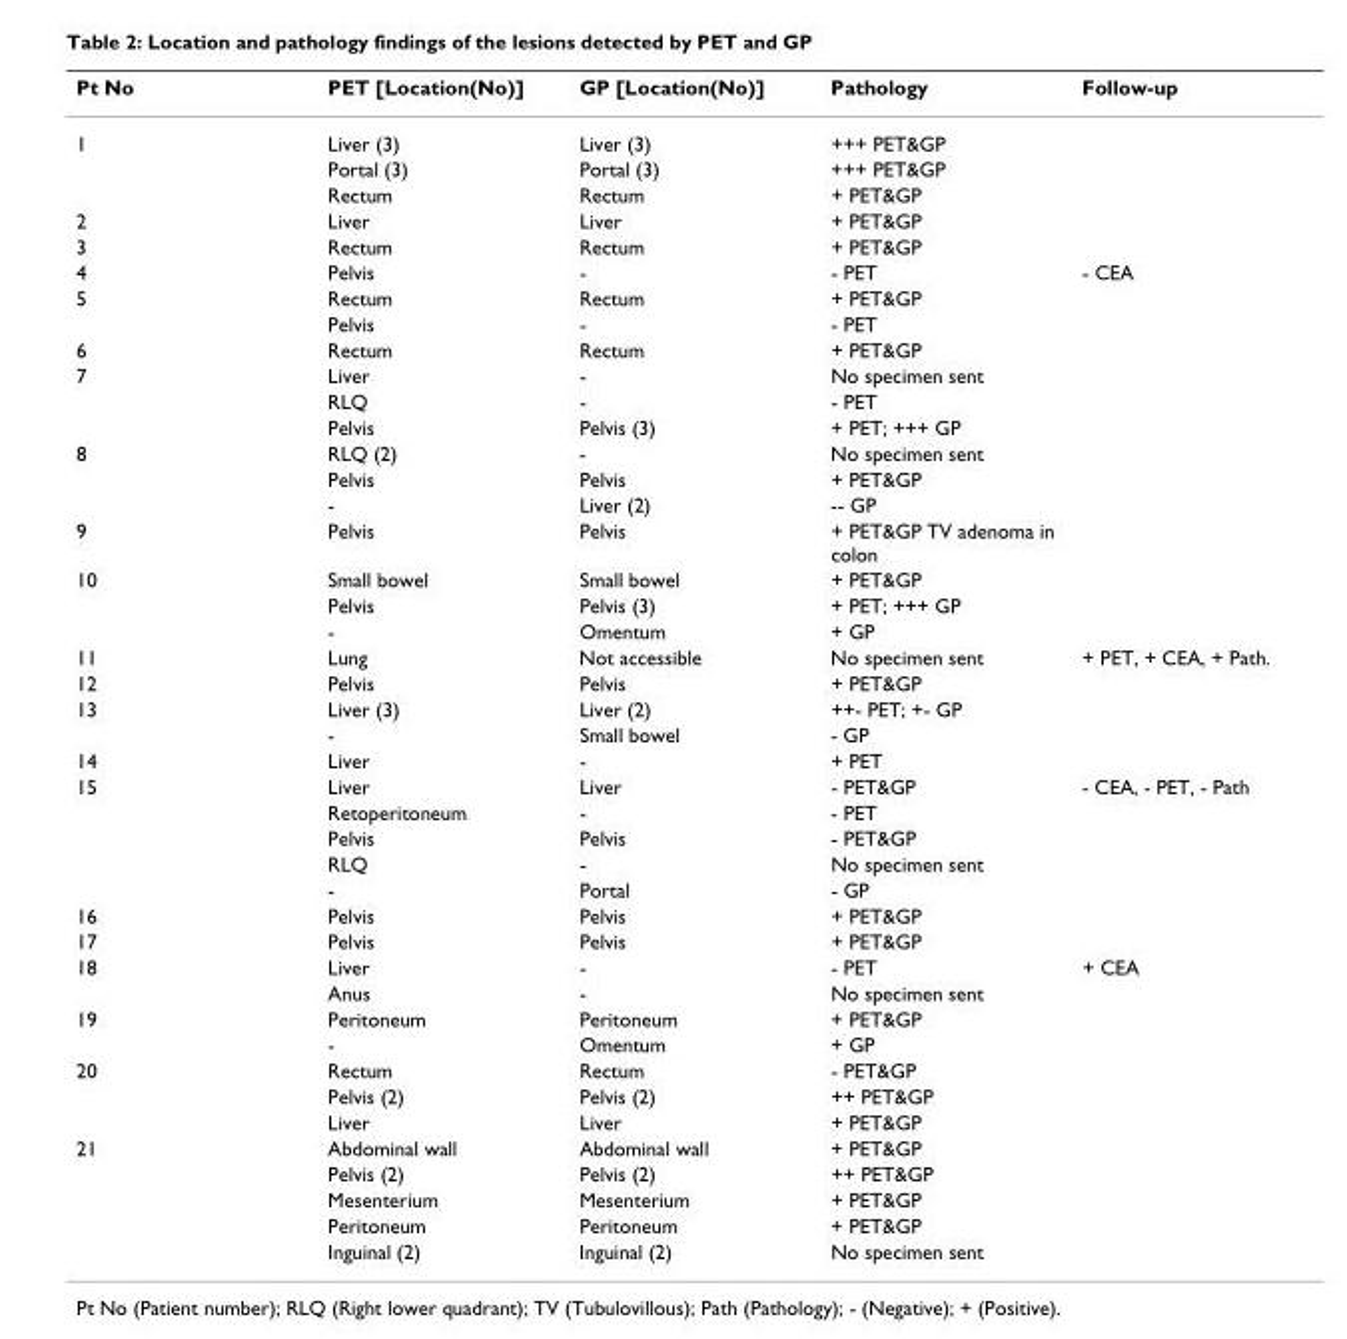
<table><thead><tr><td>Pt No</td><td>PET [Location(No)]</td><td>GP [Location(No)]</td><td>Pathology</td><td>Follow-up</td></tr></thead><tbody><tr><td rowspan="3">1</td><td>Liver (3)</td><td>Liver (3)</td><td>+++ PET&amp;GP</td><td></td></tr><tr><td>Portal (3)</td><td>Portal (3)</td><td>+++ PET&amp;GP</td><td></td></tr><tr><td>Rectum</td><td>Rectum</td><td>+ PET&amp;GP</td><td></td></tr><tr><td>2</td><td>Liver</td><td>Liver</td><td>+ PET&amp;GP</td><td></td></tr><tr><td>3</td><td>Rectum</td><td>Rectum</td><td>+ PET&amp;GP</td><td></td></tr><tr><td>4</td><td>Pelvis</td><td>-</td><td>- PET</td><td>- CEA</td></tr><tr><td rowspan="2">5</td><td>Rectum</td><td>Rectum</td><td>+ PET&amp;GP</td><td></td></tr><tr><td>Pelvis</td><td>-</td><td>- PET</td><td></td></tr><tr><td>6</td><td>Rectum</td><td>Rectum</td><td>+ PET&amp;GP</td><td></td></tr><tr><td rowspan="3">7</td><td>Liver</td><td>-</td><td>No specimen sent</td><td></td></tr><tr><td>RLQ</td><td>-</td><td>- PET</td><td></td></tr><tr><td>Pelvis</td><td>Pelvis (3)</td><td>+ PET; +++ GP</td><td></td></tr><tr><td rowspan="3">8</td><td>RLQ (2)</td><td>-</td><td>No specimen sent</td><td></td></tr><tr><td>Pelvis</td><td>Pelvis</td><td>+ PET&amp;GP</td><td></td></tr><tr><td>-</td><td>Liver (2)</td><td>-- GP</td><td></td></tr><tr><td>9</td><td>Pelvis</td><td>Pelvis</td><td>+ PET&amp;GP TV adenoma in colon</td><td></td></tr><tr><td rowspan="3">10</td><td>Small bowel</td><td>Small bowel</td><td>+ PET&amp;GP</td><td></td></tr><tr><td>Pelvis</td><td>Pelvis (3)</td><td>+ PET; +++ GP</td><td></td></tr><tr><td>-</td><td>Omentum</td><td>+ GP</td><td></td></tr><tr><td>11</td><td>Lung</td><td>Not accessible</td><td>No specimen sent</td><td>+ PET, + CEA, + Path.</td></tr><tr><td>12</td><td>Pelvis</td><td>Pelvis</td><td>+ PET&amp;GP</td><td></td></tr><tr><td rowspan="2">13</td><td>Liver (3)</td><td>Liver (2)</td><td>++- PET; +- GP</td><td></td></tr><tr><td>-</td><td>Small bowel</td><td>- GP</td><td></td></tr><tr><td>14</td><td>Liver</td><td>-</td><td>+ PET</td><td></td></tr><tr><td rowspan="5">15</td><td>Liver</td><td>Liver</td><td>- PET&amp;GP</td><td>- CEA, - PET, - Path</td></tr><tr><td>Retoperitoneum</td><td>-</td><td>- PET</td><td></td></tr><tr><td>Pelvis</td><td>Pelvis</td><td>- PET&amp;GP</td><td></td></tr><tr><td>RLQ</td><td>-</td><td>No specimen sent</td><td></td></tr><tr><td>-</td><td>Portal</td><td>- GP</td><td></td></tr><tr><td>16</td><td>Pelvis</td><td>Pelvis</td><td>+ PET&amp;GP</td><td></td></tr><tr><td>17</td><td>Pelvis</td><td>Pelvis</td><td>+ PET&amp;GP</td><td></td></tr><tr><td rowspan="2">18</td><td>Liver</td><td>-</td><td>- PET</td><td>+ CEA</td></tr><tr><td>Anus</td><td>-</td><td>No specimen sent</td><td></td></tr><tr><td rowspan="2">19</td><td>Peritoneum</td><td>Peritoneum</td><td>+ PET&amp;GP</td><td></td></tr><tr><td>-</td><td>Omentum</td><td>+ GP</td><td></td></tr><tr><td rowspan="3">20</td><td>Rectum</td><td>Rectum</td><td>- PET&amp;GP</td><td></td></tr><tr><td>Pelvis (2)</td><td>Pelvis (2)</td><td>++ PET&amp;GP</td><td></td></tr><tr><td>Liver</td><td>Liver</td><td>+ PET&amp;GP</td><td></td></tr><tr><td rowspan="5">21</td><td>Abdominal wall</td><td>Abdominal wall</td><td>+ PET&amp;GP</td><td></td></tr><tr><td>Pelvis (2)</td><td>Pelvis (2)</td><td>++ PET&amp;GP</td><td></td></tr><tr><td>Mesenterium</td><td>Mesenterium</td><td>+ PET&amp;GP</td><td></td></tr><tr><td>Peritoneum</td><td>Peritoneum</td><td>+ PET&amp;GP</td><td></td></tr><tr><td>Inguinal (2)</td><td>Inguinal (2)</td><td>No specimen sent</td><td></td></tr></tbody></table>